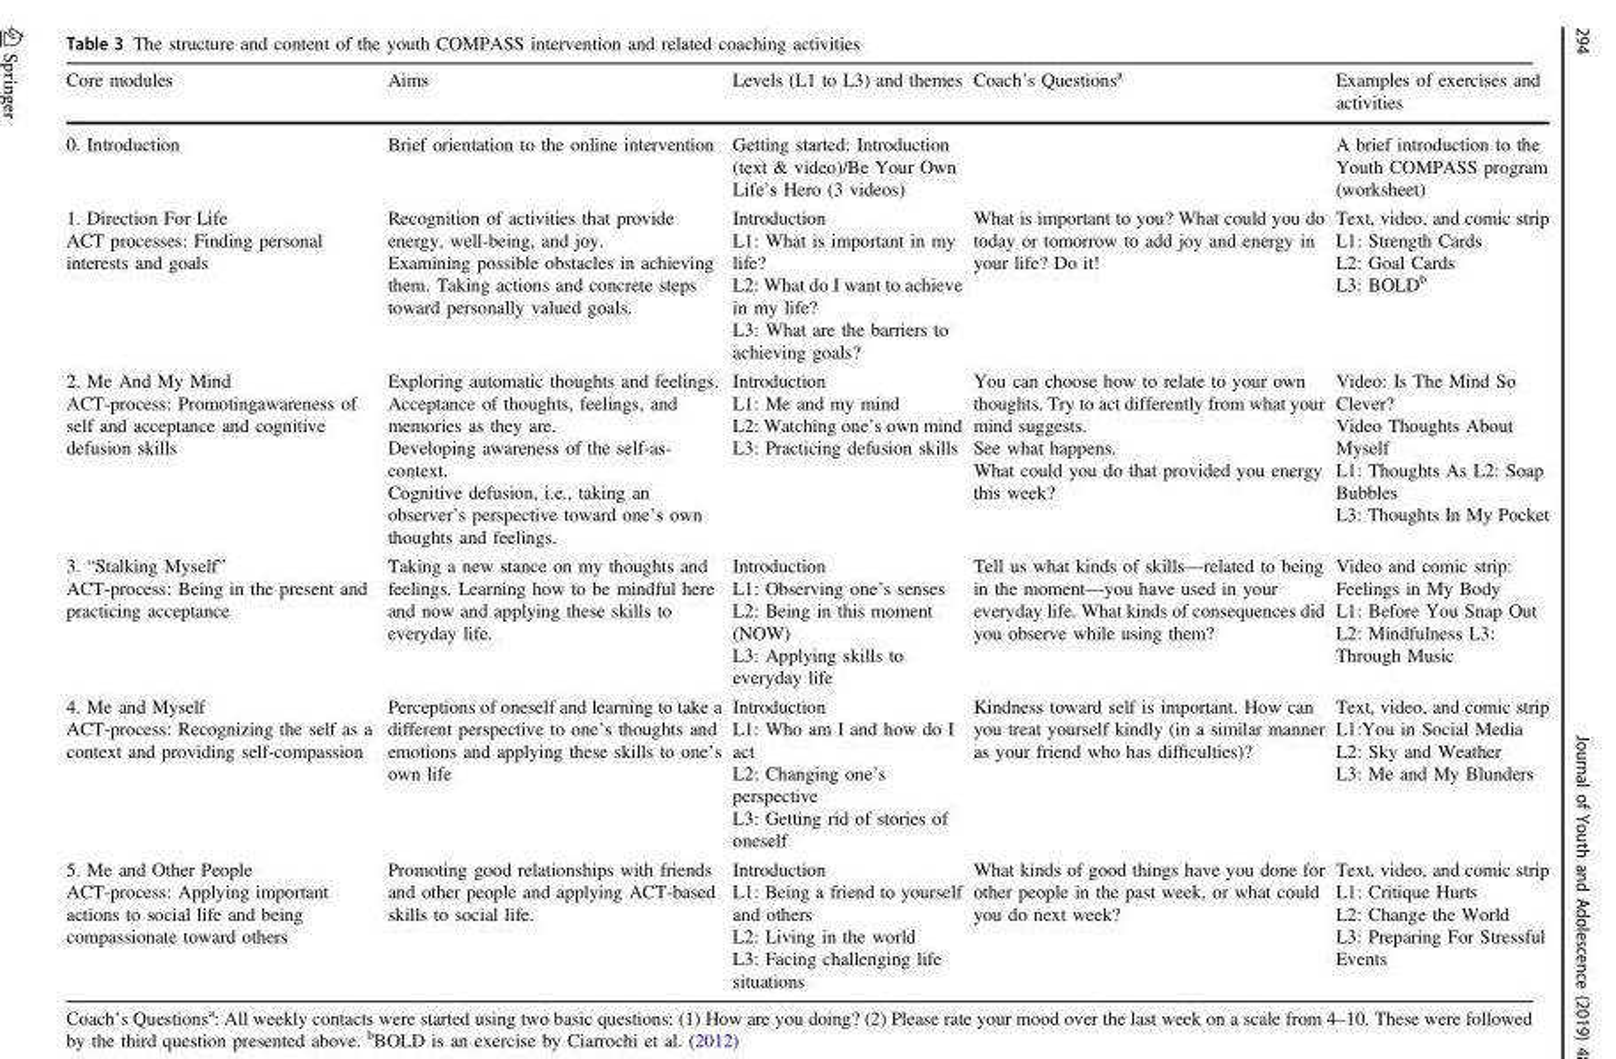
<table><thead><tr><td>Core modules</td><td>Aims</td><td>Levels (L1 to L3) and themes</td><td>Coach’s Questions<sup>a</sup></td><td>Examples of exercises and activities</td></tr></thead><tbody><tr><td>0. Introduction</td><td>Brief orientation to the online intervention</td><td>Getting started: Introduction (text &amp; video)/Be Your Own Life’s Hero (3 videos)</td><td></td><td>A brief introduction to the Youth COMPASS program (worksheet)</td></tr><tr><td>1. Direction For Life ACT processes: Finding personal interests and goals</td><td>Recognition of activities that provide energy, well-being, and joy. Examining possible obstacles in achieving them. Taking actions and concrete steps toward personally valued goals.</td><td>Introduction L1: What is important in my life? L2: What do I want to achieve in my life? L3: What are the barriers to achieving goals?</td><td>What is important to you? What could you do today or tomorrow to add joy and energy in your life? Do it!</td><td>Text, video, and comic strip L1: Strength Cards L2: Goal Cards L3: BOLD<sup>b</sup></td></tr><tr><td>2. Me And My Mind ACT-process: Promotingawareness of self and acceptance and cognitive defusion skills</td><td>Exploring automatic thoughts and feelings. Acceptance of thoughts, feelings, and memories as they are. Developing awareness of the self-as- context. Cognitive defusion, i.e., taking an observer’s perspective toward one’s own thoughts and feelings.</td><td>Introduction L1: Me and my mind L2: Watching one’s own mind L3: Practicing defusion skills</td><td>You can choose how to relate to your own thoughts. Try to act differently from what your mind suggests. See what happens. What could you do that provided you energy this week?</td><td>Video: Is The Mind So Clever? Video Thoughts About Myself L1: Thoughts As L2: Soap Bubbles L3: Thoughts In My Pocket</td></tr><tr><td>3. “Stalking Myself” ACT-process: Being in the present and practicing acceptance</td><td>Taking a new stance on my thoughts and feelings. Learning how to be mindful here and now and applying these skills to everyday life.</td><td>Introduction L1: Observing one’s senses L2: Being in this moment (NOW) L3: Applying skills to everyday life</td><td>Tell us what kinds of skills—related to being in the moment—you have used in your everyday life. What kinds of consequences did you observe while using them?</td><td>Video and comic strip: Feelings in My Body L1: Before You Snap Out L2: Mindfulness L3: Through Music</td></tr><tr><td>4. Me and Myself ACT-process: Recognizing the self as a context and providing self-compassion</td><td>Perceptions of oneself and learning to take a different perspective to one’s thoughts and emotions and applying these skills to one’s own life</td><td>Introduction L1: Who am I and how do I act L2: Changing one’s perspective L3: Getting rid of stories of oneself</td><td>Kindness toward self is important. How can you treat yourself kindly (in a similar manner as your friend who has difficulties)?</td><td>Text, video, and comic strip L1:You in Social Media L2: Sky and Weather L3: Me and My Blunders</td></tr><tr><td>5. Me and Other People ACT-process: Applying important actions to social life and being compassionate toward others</td><td>Promoting good relationships with friends and other people and applying ACT-based skills to social life.</td><td>Introduction L1: Being a friend to yourself and others L2: Living in the world L3: Facing challenging life situations</td><td>What kinds of good things have you done for other people in the past week, or what could you do next week?</td><td>Text, video, and comic strip L1: Critique Hurts L2: Change the World L3: Preparing For Stressful Events</td></tr></tbody></table>